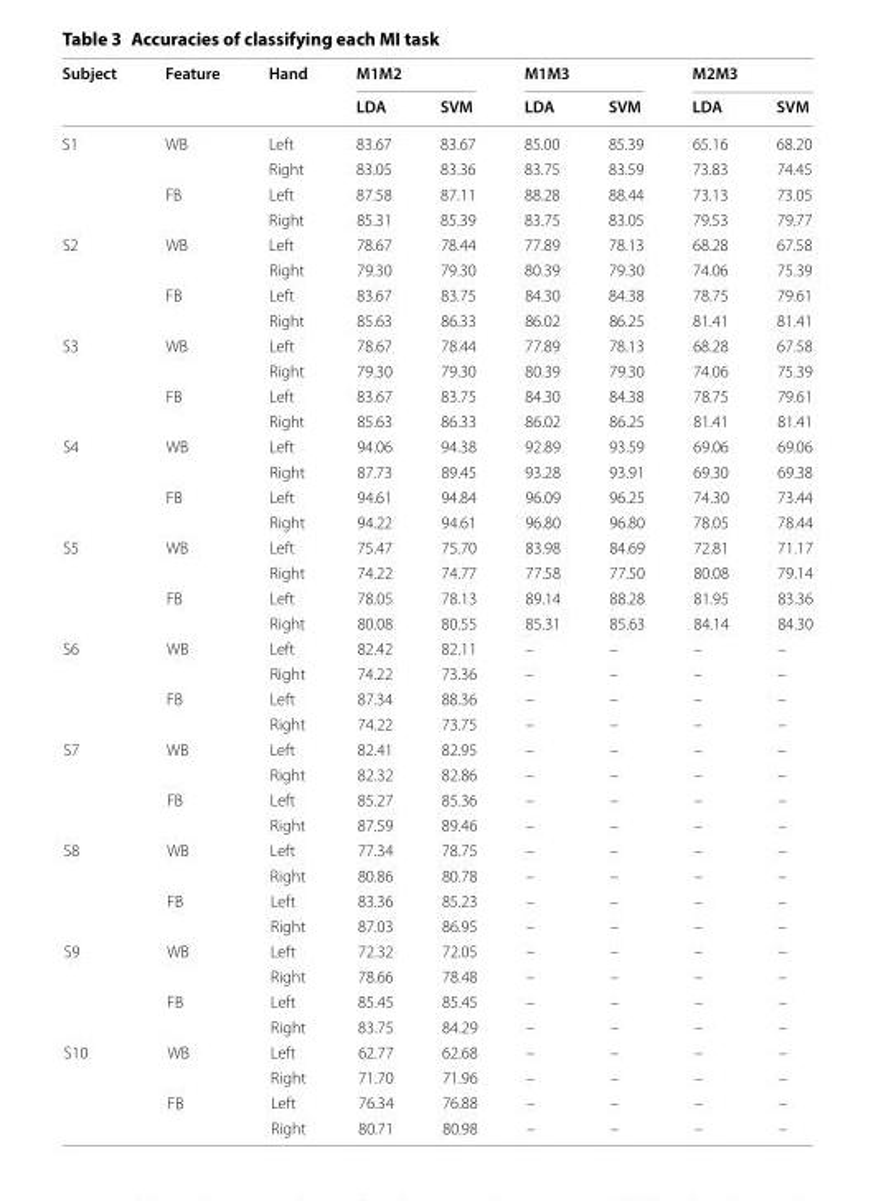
<table><thead><tr><td rowspan="2">Subject</td><td rowspan="2">Feature</td><td rowspan="2">Hand</td><td colspan="2">M1M2</td><td colspan="2">M1M3</td><td colspan="2">M2M3</td></tr><tr><td>LDA</td><td>SVM</td><td>LDA</td><td>SVM</td><td>LDA</td><td>SVM</td></tr></thead><tbody><tr><td rowspan="4">S1</td><td rowspan="2">WB</td><td>Left</td><td>83.67</td><td>83.67</td><td>85.00</td><td>85.39</td><td>65.16</td><td>68.20</td></tr><tr><td>Right</td><td>83.05</td><td>83.36</td><td>83.75</td><td>83.59</td><td>73.83</td><td>74.45</td></tr><tr><td rowspan="2">FB</td><td>Left</td><td>87.58</td><td>87.11</td><td>88.28</td><td>88.44</td><td>73.13</td><td>73.05</td></tr><tr><td>Right</td><td>85.31</td><td>85.39</td><td>83.75</td><td>83.05</td><td>79.53</td><td>79.77</td></tr><tr><td rowspan="4">S2</td><td rowspan="2">WB</td><td>Left</td><td>78.67</td><td>78.44</td><td>77.89</td><td>78.13</td><td>68.28</td><td>67.58</td></tr><tr><td>Right</td><td>79.30</td><td>79.30</td><td>80.39</td><td>79.30</td><td>74.06</td><td>75.39</td></tr><tr><td rowspan="2">FB</td><td>Left</td><td>83.67</td><td>83.75</td><td>84.30</td><td>84.38</td><td>78.75</td><td>79.61</td></tr><tr><td>Right</td><td>85.63</td><td>86.33</td><td>86.02</td><td>86.25</td><td>81.41</td><td>81.41</td></tr><tr><td rowspan="4">S3</td><td rowspan="2">WB</td><td>Left</td><td>78.67</td><td>78.44</td><td>77.89</td><td>78.13</td><td>68.28</td><td>67.58</td></tr><tr><td>Right</td><td>79.30</td><td>79.30</td><td>80.39</td><td>79.30</td><td>74.06</td><td>75.39</td></tr><tr><td rowspan="2">FB</td><td>Left</td><td>83.67</td><td>83.75</td><td>84.30</td><td>84.38</td><td>78.75</td><td>79.61</td></tr><tr><td>Right</td><td>85.63</td><td>86.33</td><td>86.02</td><td>86.25</td><td>81.41</td><td>81.41</td></tr><tr><td rowspan="4">S4</td><td rowspan="2">WB</td><td>Left</td><td>94.06</td><td>94.38</td><td>92.89</td><td>93.59</td><td>69.06</td><td>69.06</td></tr><tr><td>Right</td><td>87.73</td><td>89.45</td><td>93.28</td><td>93.91</td><td>69.30</td><td>69.38</td></tr><tr><td rowspan="2">FB</td><td>Left</td><td>94.61</td><td>94.84</td><td>96.09</td><td>96.25</td><td>74.30</td><td>73.44</td></tr><tr><td>Right</td><td>94.22</td><td>94.61</td><td>96.80</td><td>96.80</td><td>78.05</td><td>78.44</td></tr><tr><td rowspan="4">S5</td><td rowspan="2">WB</td><td>Left</td><td>75.47</td><td>75.70</td><td>83.98</td><td>84.69</td><td>72.81</td><td>71.17</td></tr><tr><td>Right</td><td>74.22</td><td>74.77</td><td>77.58</td><td>77.50</td><td>80.08</td><td>79.14</td></tr><tr><td rowspan="2">FB</td><td>Left</td><td>78.05</td><td>78.13</td><td>89.14</td><td>88.28</td><td>81.95</td><td>83.36</td></tr><tr><td>Right</td><td>80.08</td><td>80.55</td><td>85.31</td><td>85.63</td><td>84.14</td><td>84.30</td></tr><tr><td rowspan="4">S6</td><td rowspan="2">WB</td><td>Left</td><td>82.42</td><td>82.11</td><td>–</td><td>–</td><td>–</td><td>–</td></tr><tr><td>Right</td><td>74.22</td><td>73.36</td><td>–</td><td>–</td><td>–</td><td>–</td></tr><tr><td rowspan="2">FB</td><td>Left</td><td>87.34</td><td>88.36</td><td>–</td><td>–</td><td>–</td><td>–</td></tr><tr><td>Right</td><td>74.22</td><td>73.75</td><td>–</td><td>–</td><td>–</td><td>–</td></tr><tr><td rowspan="4">S7</td><td rowspan="2">WB</td><td>Left</td><td>82.41</td><td>82.95</td><td>–</td><td>–</td><td>–</td><td>–</td></tr><tr><td>Right</td><td>82.32</td><td>82.86</td><td>–</td><td>–</td><td>–</td><td>–</td></tr><tr><td rowspan="2">FB</td><td>Left</td><td>85.27</td><td>85.36</td><td>–</td><td>–</td><td>–</td><td>–</td></tr><tr><td>Right</td><td>87.59</td><td>89.46</td><td>–</td><td>–</td><td>–</td><td>–</td></tr><tr><td rowspan="4">S8</td><td rowspan="2">WB</td><td>Left</td><td>77.34</td><td>78.75</td><td>–</td><td>–</td><td>–</td><td>–</td></tr><tr><td>Right</td><td>80.86</td><td>80.78</td><td>–</td><td>–</td><td>–</td><td>–</td></tr><tr><td rowspan="2">FB</td><td>Left</td><td>83.36</td><td>85.23</td><td>–</td><td>–</td><td>–</td><td>–</td></tr><tr><td>Right</td><td>87.03</td><td>86.95</td><td>–</td><td>–</td><td>–</td><td>–</td></tr><tr><td rowspan="4">S9</td><td rowspan="2">WB</td><td>Left</td><td>72.32</td><td>72.05</td><td>–</td><td>–</td><td>–</td><td>–</td></tr><tr><td>Right</td><td>78.66</td><td>78.48</td><td>–</td><td>–</td><td>–</td><td>–</td></tr><tr><td rowspan="2">FB</td><td>Left</td><td>85.45</td><td>85.45</td><td>–</td><td>–</td><td>–</td><td>–</td></tr><tr><td>Right</td><td>83.75</td><td>84.29</td><td>–</td><td>–</td><td>–</td><td>–</td></tr><tr><td rowspan="4">S10</td><td rowspan="2">WB</td><td>Left</td><td>62.77</td><td>62.68</td><td>–</td><td>–</td><td>–</td><td>–</td></tr><tr><td>Right</td><td>71.70</td><td>71.96</td><td>–</td><td>–</td><td>–</td><td>–</td></tr><tr><td rowspan="2">FB</td><td>Left</td><td>76.34</td><td>76.88</td><td>–</td><td>–</td><td>–</td><td>–</td></tr><tr><td>Right</td><td>80.71</td><td>80.98</td><td>–</td><td>–</td><td>–</td><td>–</td></tr></tbody></table>